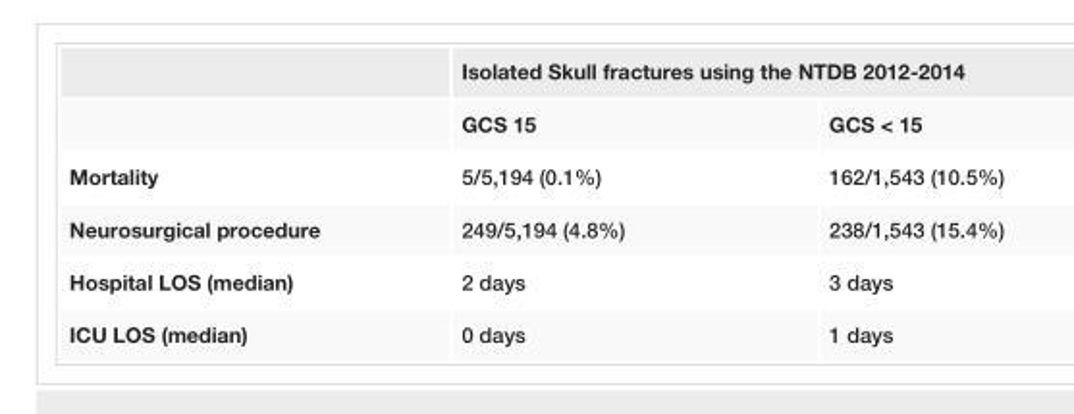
<table><thead><tr><td rowspan="2"></td><td colspan="2">Isolated Skull fractures using the NTDB 2012-2014</td></tr><tr><td>GCS 15</td><td>GCS &lt; 15</td></tr></thead><tbody><tr><td>Mortality</td><td>5/5,194 (0.1%)</td><td>162/1,543 (10.5%)</td></tr><tr><td>Neurosurgical procedure</td><td>249/5,194 (4.8%)</td><td>238/1,543 (15.4%)</td></tr><tr><td>Hospital LOS (median)</td><td>2 days</td><td>3 days</td></tr><tr><td>ICU LOS (median)</td><td>0 days</td><td>1 days</td></tr></tbody></table>